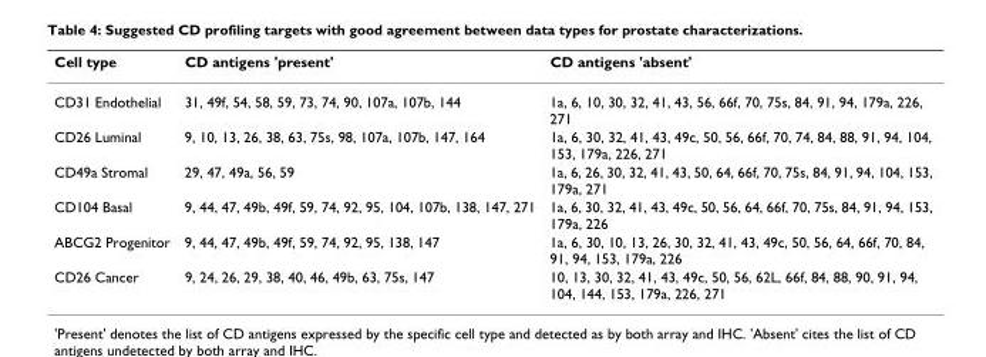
<table><thead><tr><td>Cell type</td><td>CD antigens &#x27;present&#x27;</td><td>CD antigens &#x27;absent&#x27;</td></tr></thead><tbody><tr><td>CD31 Endothelial</td><td>31, 49f, 54, 58, 59, 73, 74, 90, 107a, 107b, 144</td><td>1a, 6, 10, 30, 32, 41, 43, 56, 66f, 70, 75s, 84, 91, 94, 179a, 226, 271</td></tr><tr><td>CD26 Luminal</td><td>9, 10, 13, 26, 38, 63, 75s, 98, 107a, 107b, 147, 164</td><td>1a, 6, 30, 32, 41, 43, 49c, 50, 56, 66f, 70, 74, 84, 88, 91, 94, 104, 153, 179a, 226, 271</td></tr><tr><td>CD49a Stromal</td><td>29, 47, 49a, 56, 59</td><td>1a, 6, 26, 30, 32, 41, 43, 50, 64, 66f, 70, 75s, 84, 91, 94, 104, 153, 179a, 271</td></tr><tr><td>CD104 Basal</td><td>9, 44, 47, 49b, 49f, 59, 74, 92, 95, 104, 107b, 138, 147, 271</td><td>1a, 6, 30, 32, 41, 43, 49c, 50, 56, 64, 66f, 70, 75s, 84, 91, 94, 153, 179a, 226</td></tr><tr><td>ABCG2 Progenitor</td><td>9, 44, 47, 49b, 49f, 59, 74, 92, 95, 138, 147</td><td>1a, 6, 30, 10, 13, 26, 30, 32, 41, 43, 49c, 50, 56, 64, 66f, 70, 84, 91, 94, 153, 179a, 226</td></tr><tr><td>CD26 Cancer</td><td>9, 24, 26, 29, 38, 40, 46, 49b, 63, 75s, 147</td><td>10, 13, 30, 32, 41, 43, 49c, 50, 56, 62L, 66f, 84, 88, 90, 91, 94, 104, 144, 153, 179a, 226, 271</td></tr></tbody></table>